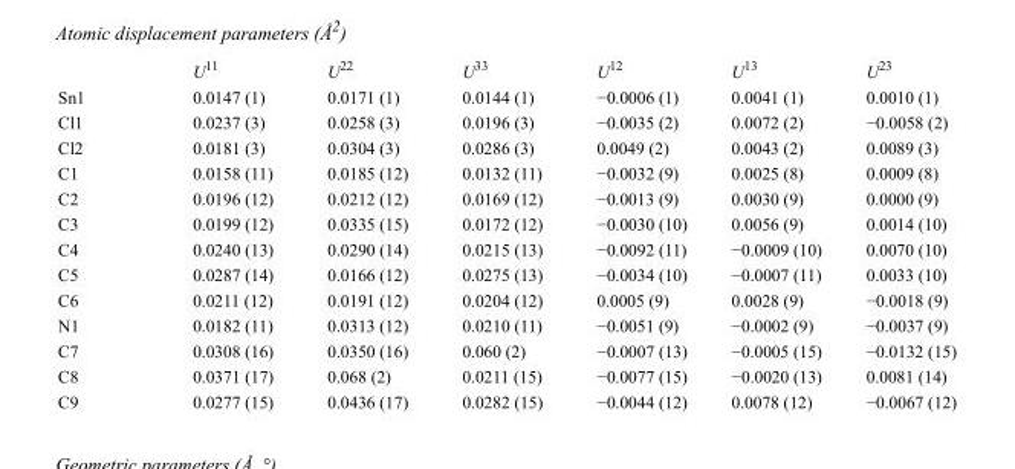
<table><thead><tr><td></td><td>U<sup>11</sup></td><td>U<sup>22</sup></td><td>U<sup>33</sup></td><td>U<sup>12</sup></td><td>U<sup>13</sup></td><td>U<sup>23</sup></td></tr></thead><tbody><tr><td>Sn1</td><td>0.0147 (1)</td><td>0.0171 (1)</td><td>0.0144 (1)</td><td>−0.0006 (1)</td><td>0.0041 (1)</td><td>0.0010 (1)</td></tr><tr><td>Cl1</td><td>0.0237 (3)</td><td>0.0258 (3)</td><td>0.0196 (3)</td><td>−0.0035 (2)</td><td>0.0072 (2)</td><td>−0.0058 (2)</td></tr><tr><td>Cl2</td><td>0.0181 (3)</td><td>0.0304 (3)</td><td>0.0286 (3)</td><td>0.0049 (2)</td><td>0.0043 (2)</td><td>0.0089 (3)</td></tr><tr><td>C1</td><td>0.0158 (11)</td><td>0.0185 (12)</td><td>0.0132 (11)</td><td>−0.0032 (9)</td><td>0.0025 (8)</td><td>0.0009 (8)</td></tr><tr><td>C2</td><td>0.0196 (12)</td><td>0.0212 (12)</td><td>0.0169 (12)</td><td>−0.0013 (9)</td><td>0.0030 (9)</td><td>0.0000 (9)</td></tr><tr><td>C3</td><td>0.0199 (12)</td><td>0.0335 (15)</td><td>0.0172 (12)</td><td>−0.0030 (10)</td><td>0.0056 (9)</td><td>0.0014 (10)</td></tr><tr><td>C4</td><td>0.0240 (13)</td><td>0.0290 (14)</td><td>0.0215 (13)</td><td>−0.0092 (11)</td><td>−0.0009 (10)</td><td>0.0070 (10)</td></tr><tr><td>C5</td><td>0.0287 (14)</td><td>0.0166 (12)</td><td>0.0275 (13)</td><td>−0.0034 (10)</td><td>−0.0007 (11)</td><td>0.0033 (10)</td></tr><tr><td>C6</td><td>0.0211 (12)</td><td>0.0191 (12)</td><td>0.0204 (12)</td><td>0.0005 (9)</td><td>0.0028 (9)</td><td>−0.0018 (9)</td></tr><tr><td>N1</td><td>0.0182 (11)</td><td>0.0313 (12)</td><td>0.0210 (11)</td><td>−0.0051 (9)</td><td>−0.0002 (9)</td><td>−0.0037 (9)</td></tr><tr><td>C7</td><td>0.0308 (16)</td><td>0.0350 (16)</td><td>0.060 (2)</td><td>−0.0007 (13)</td><td>−0.0005 (15)</td><td>−0.0132 (15)</td></tr><tr><td>C8</td><td>0.0371 (17)</td><td>0.068 (2)</td><td>0.0211 (15)</td><td>−0.0077 (15)</td><td>−0.0020 (13)</td><td>0.0081 (14)</td></tr><tr><td>C9</td><td>0.0277 (15)</td><td>0.0436 (17)</td><td>0.0282 (15)</td><td>−0.0044 (12)</td><td>0.0078 (12)</td><td>−0.0067 (12)</td></tr></tbody></table>